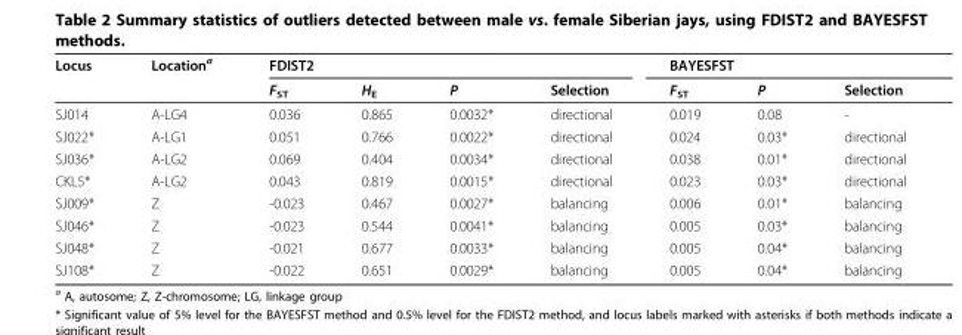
<table><thead><tr><td rowspan="2">Locus</td><td rowspan="2">Location<sup>a</sup></td><td colspan="4">FDIST2</td><td colspan="3">BAYESFST</td></tr><tr><td>F<sub>ST</sub></td><td>H<sub>E</sub></td><td>P</td><td>Selection</td><td>F<sub>ST</sub></td><td>P</td><td>Selection</td></tr></thead><tbody><tr><td>SJ014</td><td>A-LG4</td><td>0.036</td><td>0.865</td><td>0.0032*</td><td>directional</td><td>0.019</td><td>0.08</td><td>-</td></tr><tr><td>SJ022*</td><td>A-LG1</td><td>0.051</td><td>0.766</td><td>0.0022*</td><td>directional</td><td>0.024</td><td>0.03*</td><td>directional</td></tr><tr><td>SJ036*</td><td>A-LG2</td><td>0.069</td><td>0.404</td><td>0.0034*</td><td>directional</td><td>0.038</td><td>0.01*</td><td>directional</td></tr><tr><td>CKL5*</td><td>A-LG2</td><td>0.043</td><td>0.819</td><td>0.0015*</td><td>directional</td><td>0.023</td><td>0.03*</td><td>directional</td></tr><tr><td>SJ009*</td><td>Z</td><td>-0.023</td><td>0.467</td><td>0.0027*</td><td>balancing</td><td>0.006</td><td>0.01*</td><td>balancing</td></tr><tr><td>SJ046*</td><td>Z</td><td>-0.023</td><td>0.544</td><td>0.0041*</td><td>balancing</td><td>0.005</td><td>0.03*</td><td>balancing</td></tr><tr><td>SJ048*</td><td>Z</td><td>-0.021</td><td>0.677</td><td>0.0033*</td><td>balancing</td><td>0.005</td><td>0.04*</td><td>balancing</td></tr><tr><td>SJ108*</td><td>Z</td><td>-0.022</td><td>0.651</td><td>0.0029*</td><td>balancing</td><td>0.005</td><td>0.04*</td><td>balancing</td></tr></tbody></table>